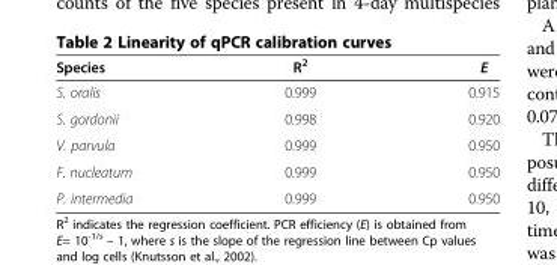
<table><thead><tr><td>Species</td><td>R<sup>2</sup></td><td>E</td></tr></thead><tbody><tr><td>S. oralis</td><td>0.999</td><td>0.915</td></tr><tr><td>S. gordonii</td><td>0.998</td><td>0.920</td></tr><tr><td>V. parvula</td><td>0.999</td><td>0.950</td></tr><tr><td>F. nucleatum</td><td>0.999</td><td>0.950</td></tr><tr><td>P. intermedia</td><td>0.999</td><td>0.950</td></tr></tbody></table>